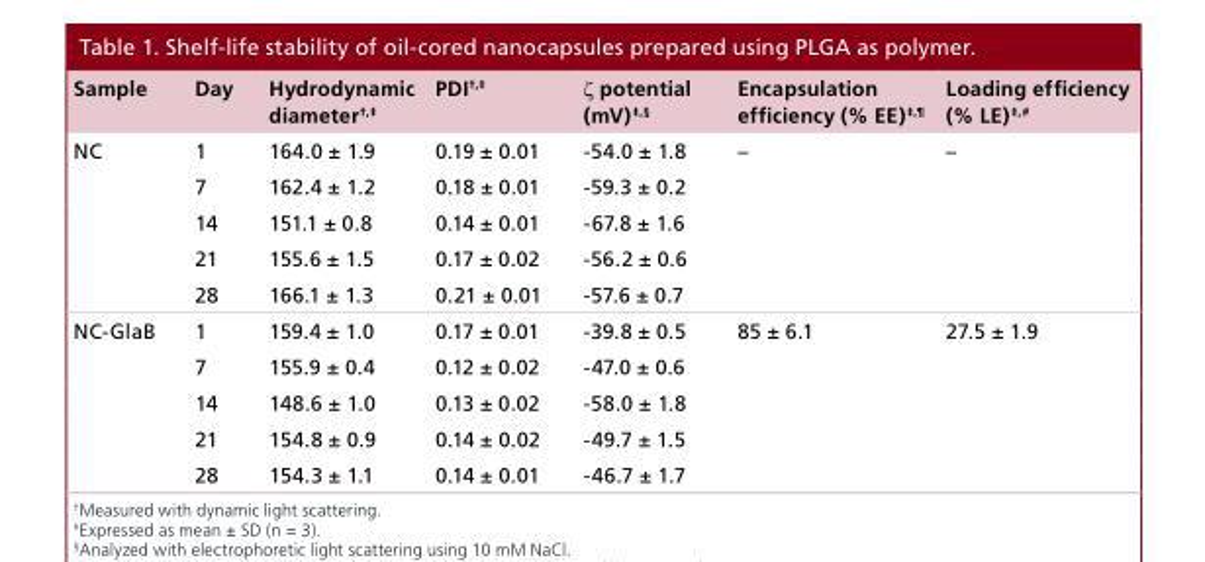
<table><thead><tr><td>Sample</td><td>Day</td><td>Hydrodynamic diameter<sup>†,‡</sup></td><td>PDI<sup>†,‡</sup></td><td>ζ potential (mV)<sup>‡,§</sup></td><td>Encapsulation efficiency (% EE)<sup>‡,¶</sup></td><td>Loading efficiency (% LE)<sup>‡,#</sup></td></tr></thead><tbody><tr><td rowspan="5">NC</td><td>1</td><td>164.0 ± 1.9</td><td>0.19 ± 0.01</td><td>-54.0 ± 1.8</td><td>–</td><td>–</td></tr><tr><td>7</td><td>162.4 ± 1.2</td><td>0.18 ± 0.01</td><td>-59.3 ± 0.2</td><td></td><td></td></tr><tr><td>14</td><td>151.1 ± 0.8</td><td>0.14 ± 0.01</td><td>-67.8 ± 1.6</td><td></td><td></td></tr><tr><td>21</td><td>155.6 ± 1.5</td><td>0.17 ± 0.02</td><td>-56.2 ± 0.6</td><td></td><td></td></tr><tr><td>28</td><td>166.1 ± 1.3</td><td>0.21 ± 0.01</td><td>-57.6 ± 0.7</td><td></td><td></td></tr><tr><td rowspan="5">NC-GlaB</td><td>1</td><td>159.4 ± 1.0</td><td>0.17 ± 0.01</td><td>-39.8 ± 0.5</td><td>85 ± 6.1</td><td>27.5 ± 1.9</td></tr><tr><td>7</td><td>155.9 ± 0.4</td><td>0.12 ± 0.02</td><td>-47.0 ± 0.6</td><td></td><td></td></tr><tr><td>14</td><td>148.6 ± 1.0</td><td>0.13 ± 0.02</td><td>-58.0 ± 1.8</td><td></td><td></td></tr><tr><td>21</td><td>154.8 ± 0.9</td><td>0.14 ± 0.02</td><td>-49.7 ± 1.5</td><td></td><td></td></tr><tr><td>28</td><td>154.3 ± 1.1</td><td>0.14 ± 0.01</td><td>-46.7 ± 1.7</td><td></td><td></td></tr></tbody></table>